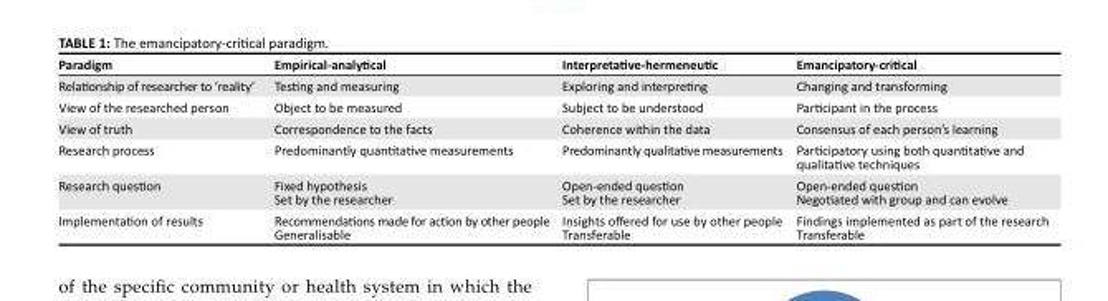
<table><thead><tr><td>Paradigm</td><td>Empirical-analytical</td><td>Interpretative-hermeneutic</td><td>Emancipatory-critical</td></tr></thead><tbody><tr><td>Relationship of researcher to ‘reality’</td><td>Testing and measuring</td><td>Exploring and interpreting</td><td>Changing and transforming</td></tr><tr><td>View of the researched person</td><td>Object to be measured</td><td>Subject to be understood</td><td>Participant in the process</td></tr><tr><td>View of truth</td><td>Correspondence to the facts</td><td>Coherence within the data</td><td>Consensus of each person’s learning</td></tr><tr><td>Research process</td><td>Predominantly quantitative measurements</td><td>Predominantly qualitative measurements</td><td>Participatory using both quantitative and qualitative techniques</td></tr><tr><td>Research question</td><td>Fixed hypothesis Set by the researcher</td><td>Open-ended question Set by the researcher</td><td>Open-ended question Negotiated with group and can evolve</td></tr><tr><td>Implementation of results</td><td>Recommendations made for action by other people Generalisable</td><td>Insights offered for use by other people Transferable</td><td>Findings implemented as part of the research Transferable</td></tr></tbody></table>